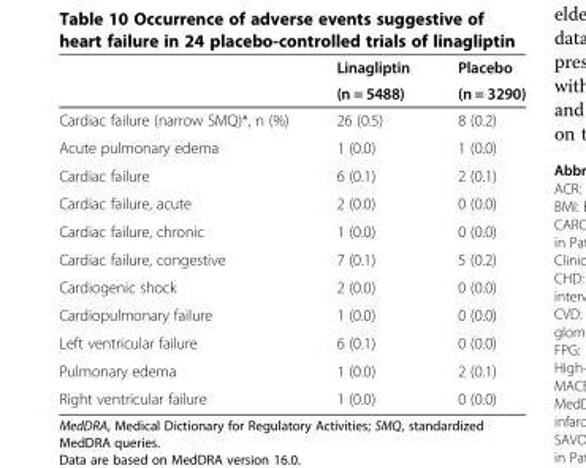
<table><thead><tr><td rowspan="2"></td><td rowspan="2">Linagliptin (n = 5488)</td><td rowspan="2">Placebo (n = 3290)</td></tr><tr></tr></thead><tbody><tr><td>Cardiac failure (narrow SMQ)*, n (%)</td><td>26 (0.5)</td><td>8 (0.2)</td></tr><tr><td>Acute pulmonary edema</td><td>1 (0.0)</td><td>1 (0.0)</td></tr><tr><td>Cardiac failure</td><td>6 (0.1)</td><td>2 (0.1)</td></tr><tr><td>Cardiac failure, acute</td><td>2 (0.0)</td><td>0 (0.0)</td></tr><tr><td>Cardiac failure, chronic</td><td>1 (0.0)</td><td>0 (0.0)</td></tr><tr><td>Cardiac failure, congestive</td><td>7 (0.1)</td><td>5 (0.2)</td></tr><tr><td>Cardiogenic shock</td><td>2 (0.0)</td><td>0 (0.0)</td></tr><tr><td>Cardiopulmonary failure</td><td>1 (0.0)</td><td>0 (0.0)</td></tr><tr><td>Left ventricular failure</td><td>6 (0.1)</td><td>0 (0.0)</td></tr><tr><td>Pulmonary edema</td><td>1 (0.0)</td><td>2 (0.1)</td></tr><tr><td>Right ventricular failure</td><td>1 (0.0)</td><td>0 (0.0)</td></tr></tbody></table>